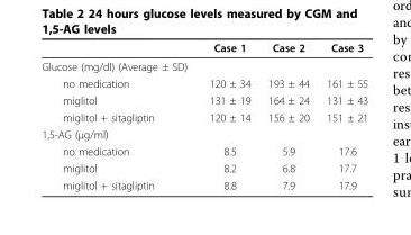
<table><thead><tr><td></td><td>Case 1</td><td>Case 2</td><td>Case 3</td></tr></thead><tbody><tr><td colspan="4">Glucose (mg/dl) (Average ± SD)</td></tr><tr><td>no medication</td><td>120 ± 34</td><td>193 ± 44</td><td>161 ± 55</td></tr><tr><td>miglitol</td><td>131 ± 19</td><td>164 ± 24</td><td>131 ± 43</td></tr><tr><td>miglitol + sitagliptin</td><td>120 ± 14</td><td>156 ± 20</td><td>151 ± 21</td></tr><tr><td colspan="4">1,5-AG (μg/ml)</td></tr><tr><td>no medication</td><td>8.5</td><td>5.9</td><td>17.6</td></tr><tr><td>miglitol</td><td>8.2</td><td>6.8</td><td>17.7</td></tr><tr><td>miglitol + sitagliptin</td><td>8.8</td><td>7.9</td><td>17.9</td></tr></tbody></table>